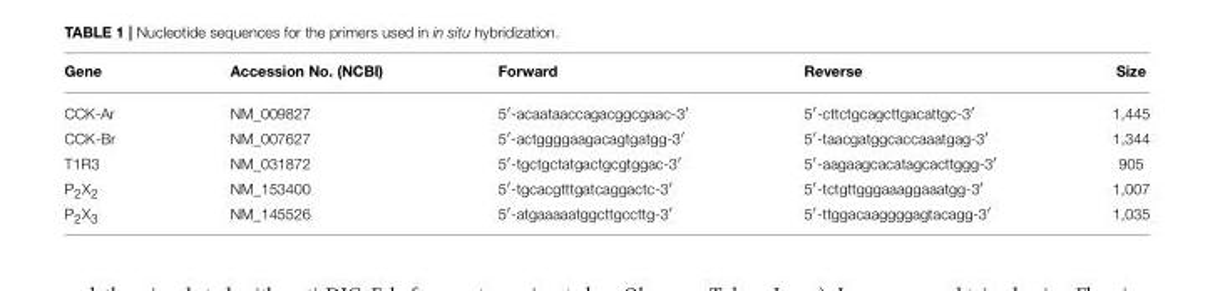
<table><thead><tr><td>Gene</td><td>Accession No. (NCBI)</td><td>Forward</td><td>Reverse</td><td>Size</td></tr></thead><tbody><tr><td>CCK-Ar</td><td>NM_009827</td><td>5′-acaataaccagacggcgaac-3′</td><td>5′-cttctgcagcttgacattgc-3′</td><td>1,445</td></tr><tr><td>CCK-Br</td><td>NM_007627</td><td>5′-actggggaagacagtgatgg-3′</td><td>5′-taacgatggcaccaaatgag-3′</td><td>1,344</td></tr><tr><td>T1R3</td><td>NM_031872</td><td>5′-tgctgctatgactgcgtggac-3′</td><td>5′-aagaagcacatagcacttggg-3′</td><td>905</td></tr><tr><td>P<sub>2</sub>X<sub>2</sub></td><td>NM_153400</td><td>5′-tgcacgtttgatcaggactc-3′</td><td>5′-tctgttgggaaaggaaatgg-3′</td><td>1,007</td></tr><tr><td>P<sub>2</sub>X<sub>3</sub></td><td>NM_145526</td><td>5′-atgaaaaatggcttgccttg-3′</td><td>5′-ttggacaaggggagtacagg-3′</td><td>1,035</td></tr></tbody></table>